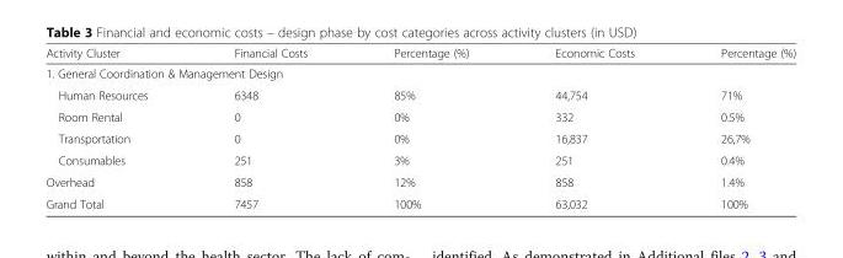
<table><thead><tr><td>Activity Cluster</td><td>Financial Costs</td><td>Percentage (%)</td><td>Economic Costs</td><td>Percentage (%)</td></tr></thead><tbody><tr><td colspan="5">1. General Coordination &amp; Management Design</td></tr><tr><td>Human Resources</td><td>6348</td><td>85%</td><td>44,754</td><td>71%</td></tr><tr><td>Room Rental</td><td>0</td><td>0%</td><td>332</td><td>0.5%</td></tr><tr><td>Transportation</td><td>0</td><td>0%</td><td>16,837</td><td>26,7%</td></tr><tr><td>Consumables</td><td>251</td><td>3%</td><td>251</td><td>0.4%</td></tr><tr><td>Overhead</td><td>858</td><td>12%</td><td>858</td><td>1.4%</td></tr><tr><td>Grand Total</td><td>7457</td><td>100%</td><td>63,032</td><td>100%</td></tr></tbody></table>